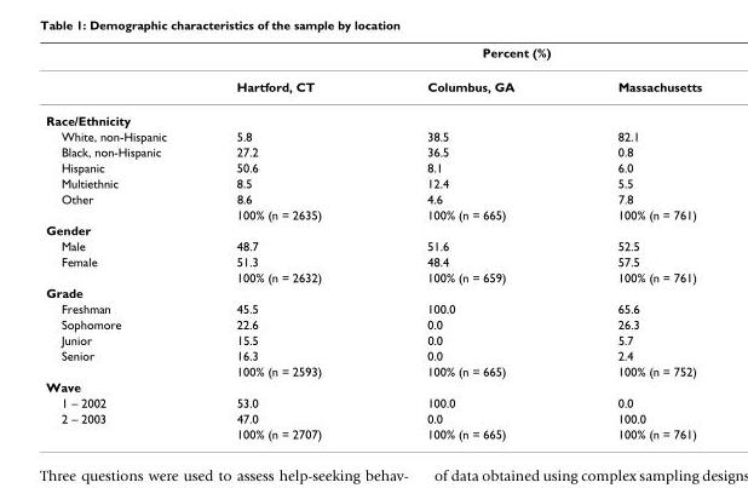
<table><thead><tr><td rowspan="2"></td><td colspan="3">Percent (%)</td></tr><tr><td>Hartford, CT</td><td>Columbus, GA</td><td>Massachusetts</td></tr></thead><tbody><tr><td colspan="4">Race/Ethnicity</td></tr><tr><td>White, non-Hispanic</td><td>5.8</td><td>38.5</td><td>82.1</td></tr><tr><td>Black, non-Hispanic</td><td>27.2</td><td>36.5</td><td>0.8</td></tr><tr><td>Hispanic</td><td>50.6</td><td>8.1</td><td>6.0</td></tr><tr><td>Multiethnic</td><td>8.5</td><td>12.4</td><td>5.5</td></tr><tr><td rowspan="2">Other</td><td>8.6</td><td>4.6</td><td>7.8</td></tr><tr><td>100% (n = 2635)</td><td>100% (n = 665)</td><td>100% (n = 761)</td></tr><tr><td colspan="4">Gender</td></tr><tr><td>Male</td><td>48.7</td><td>51.6</td><td>52.5</td></tr><tr><td rowspan="2">Female</td><td>51.3</td><td>48.4</td><td>57.5</td></tr><tr><td>100% (n = 2632)</td><td>100% (n = 659)</td><td>100% (n = 761)</td></tr><tr><td colspan="4">Grade</td></tr><tr><td>Freshman</td><td>45.5</td><td>100.0</td><td>65.6</td></tr><tr><td>Sophomore</td><td>22.6</td><td>0.0</td><td>26.3</td></tr><tr><td>Junior</td><td>15.5</td><td>0.0</td><td>5.7</td></tr><tr><td rowspan="2">Senior</td><td>16.3</td><td>0.0</td><td>2.4</td></tr><tr><td>100% (n = 2593)</td><td>100% (n = 665)</td><td>100% (n = 752)</td></tr><tr><td colspan="4">Wave</td></tr><tr><td>1 – 2002</td><td>53.0</td><td>100.0</td><td>0.0</td></tr><tr><td rowspan="2">2 – 2003</td><td>47.0</td><td>0.0</td><td>100.0</td></tr><tr><td>100% (n = 2707)</td><td>100% (n = 665)</td><td>100% (n = 761)</td></tr></tbody></table>